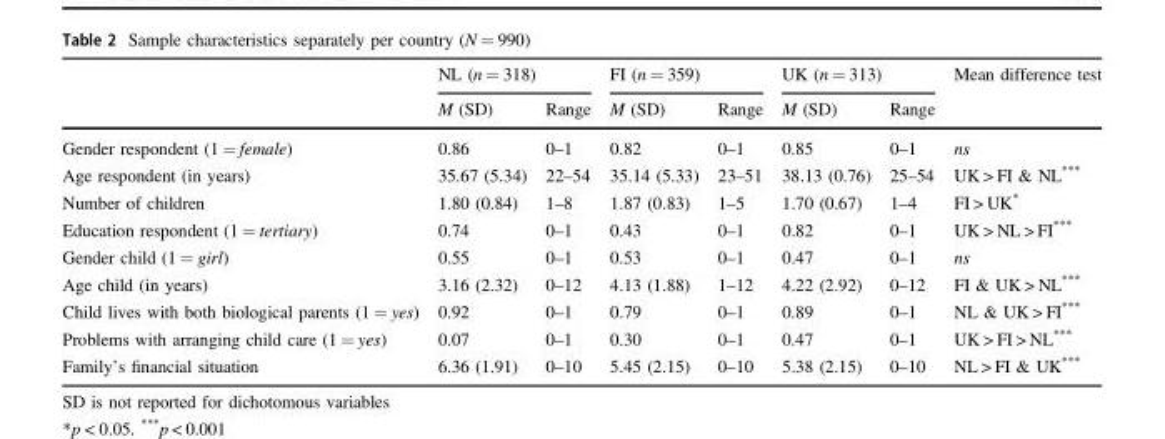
<table><thead><tr><td rowspan="2"></td><td colspan="2">NL (n = 318)</td><td colspan="2">FI (n = 359)</td><td colspan="2">UK (n = 313)</td><td rowspan="2">Mean difference test</td></tr><tr><td>M (SD)</td><td>Range</td><td>M (SD)</td><td>Range</td><td>M (SD)</td><td>Range</td></tr></thead><tbody><tr><td>Gender respondent (1 = female)</td><td>0.86</td><td>0–1</td><td>0.82</td><td>0–1</td><td>0.85</td><td>0–1</td><td>ns</td></tr><tr><td>Age respondent (in years)</td><td>35.67 (5.34)</td><td>22–54</td><td>35.14 (5.33)</td><td>23–51</td><td>38.13 (0.76)</td><td>25–54</td><td>UK &gt; FI &amp; NL***</td></tr><tr><td>Number of children</td><td>1.80 (0.84)</td><td>1–8</td><td>1.87 (0.83)</td><td>1–5</td><td>1.70 (0.67)</td><td>1–4</td><td>FI &gt; UK*</td></tr><tr><td>Education respondent (1 = tertiary)</td><td>0.74</td><td>0–1</td><td>0.43</td><td>0–1</td><td>0.82</td><td>0–1</td><td>UK &gt; NL &gt; FI***</td></tr><tr><td>Gender child (1 = girl)</td><td>0.55</td><td>0–1</td><td>0.53</td><td>0–1</td><td>0.47</td><td>0–1</td><td>ns</td></tr><tr><td>Age child (in years)</td><td>3.16 (2.32)</td><td>0–12</td><td>4.13 (1.88)</td><td>1–12</td><td>4.22 (2.92)</td><td>0–12</td><td>FI &amp; UK &gt; NL***</td></tr><tr><td>Child lives with both biological parents (1 = yes)</td><td>0.92</td><td>0–1</td><td>0.79</td><td>0–1</td><td>0.89</td><td>0–1</td><td>NL &amp; UK &gt; FI***</td></tr><tr><td>Problems with arranging child care (1 = yes)</td><td>0.07</td><td>0–1</td><td>0.30</td><td>0–1</td><td>0.47</td><td>0–1</td><td>UK &gt; FI &gt; NL***</td></tr><tr><td>Family’s financial situation</td><td>6.36 (1.91)</td><td>0–10</td><td>5.45 (2.15)</td><td>0–10</td><td>5.38 (2.15)</td><td>0–10</td><td>NL &gt; FI &amp; UK***</td></tr></tbody></table>